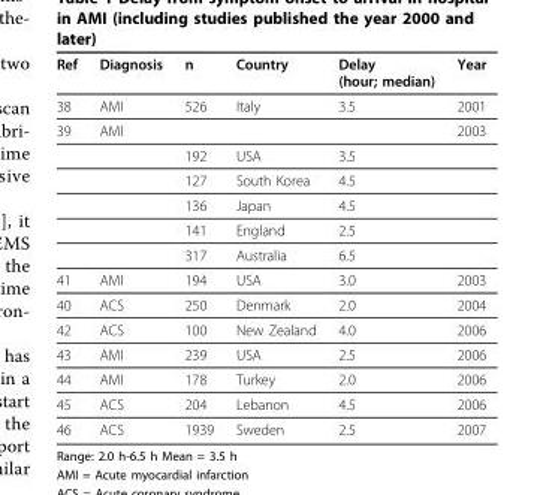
<table><thead><tr><td>Ref</td><td>Diagnosis</td><td>n</td><td>Country</td><td>Delay (hour; median)</td><td>Year</td></tr></thead><tbody><tr><td>38</td><td>AMI</td><td>526</td><td>Italy</td><td>3.5</td><td>2001</td></tr><tr><td rowspan="6">39</td><td>AMI</td><td></td><td></td><td></td><td>2003</td></tr><tr><td></td><td>192</td><td>USA</td><td>3.5</td><td></td></tr><tr><td></td><td>127</td><td>South Korea</td><td>4.5</td><td></td></tr><tr><td></td><td>136</td><td>Japan</td><td>4.5</td><td></td></tr><tr><td></td><td>141</td><td>England</td><td>2.5</td><td></td></tr><tr><td></td><td>317</td><td>Australia</td><td>6.5</td><td></td></tr><tr><td>41</td><td>AMI</td><td>194</td><td>USA</td><td>3.0</td><td>2003</td></tr><tr><td>40</td><td>ACS</td><td>250</td><td>Denmark</td><td>2.0</td><td>2004</td></tr><tr><td>42</td><td>ACS</td><td>100</td><td>New Zealand</td><td>4.0</td><td>2006</td></tr><tr><td>43</td><td>AMI</td><td>239</td><td>USA</td><td>2.5</td><td>2006</td></tr><tr><td>44</td><td>AMI</td><td>178</td><td>Turkey</td><td>2.0</td><td>2006</td></tr><tr><td>45</td><td>ACS</td><td>204</td><td>Lebanon</td><td>4.5</td><td>2006</td></tr><tr><td>46</td><td>ACS</td><td>1939</td><td>Sweden</td><td>2.5</td><td>2007</td></tr></tbody></table>